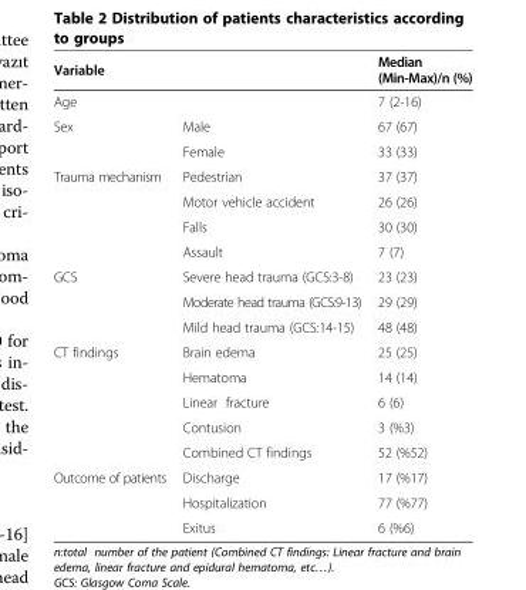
<table><thead><tr><td>Variable</td><td></td><td>Median (Min-Max)/n (%)</td></tr></thead><tbody><tr><td>Age</td><td></td><td>7 (2-16)</td></tr><tr><td rowspan="2">Sex</td><td>Male</td><td>67 (67)</td></tr><tr><td>Female</td><td>33 (33)</td></tr><tr><td rowspan="4">Trauma mechanism</td><td>Pedestrian</td><td>37 (37)</td></tr><tr><td>Motor vehicle accident</td><td>26 (26)</td></tr><tr><td>Falls</td><td>30 (30)</td></tr><tr><td>Assault</td><td>7 (7)</td></tr><tr><td rowspan="3">GCS</td><td>Severe head trauma (GCS:3-8)</td><td>23 (23)</td></tr><tr><td>Moderate head trauma (GCS:9-13)</td><td>29 (29)</td></tr><tr><td>Mild head trauma (GCS:14-15)</td><td>48 (48)</td></tr><tr><td rowspan="5">CT findings</td><td>Brain edema</td><td>25 (25)</td></tr><tr><td>Hematoma</td><td>14 (14)</td></tr><tr><td>Linear fracture</td><td>6 (6)</td></tr><tr><td>Contusion</td><td>3 (%3)</td></tr><tr><td>Combined CT findings</td><td>52 (%52)</td></tr><tr><td rowspan="3">Outcome of patients</td><td>Discharge</td><td>17 (%17)</td></tr><tr><td>Hospitalization</td><td>77 (%77)</td></tr><tr><td>Exitus</td><td>6 (%6)</td></tr></tbody></table>